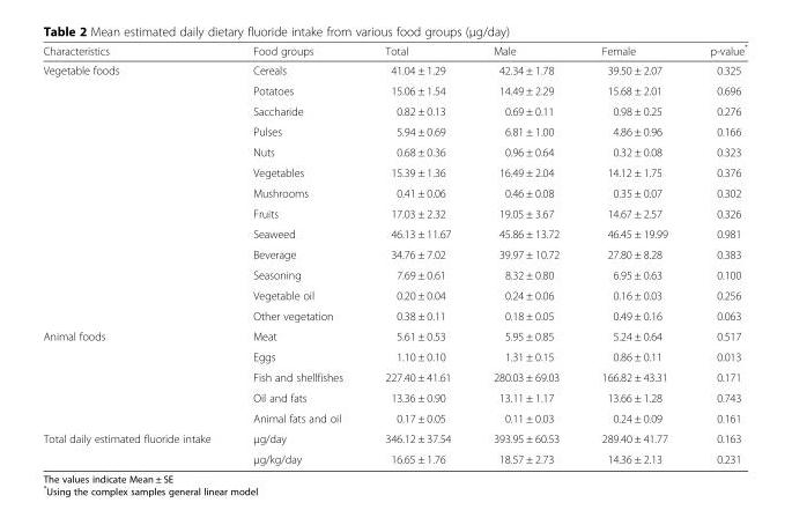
<table><thead><tr><td>Characteristics</td><td>Food groups</td><td>Total</td><td>Male</td><td>Female</td><td>p-value*</td></tr></thead><tbody><tr><td rowspan="13">Vegetable foods</td><td>Cereals</td><td>41.04 ± 1.29</td><td>42.34 ± 1.78</td><td>39.50 ± 2.07</td><td>0.325</td></tr><tr><td>Potatoes</td><td>15.06 ± 1.54</td><td>14.49 ± 2.29</td><td>15.68 ± 2.01</td><td>0.696</td></tr><tr><td>Saccharide</td><td>0.82 ± 0.13</td><td>0.69 ± 0.11</td><td>0.98 ± 0.25</td><td>0.276</td></tr><tr><td>Pulses</td><td>5.94 ± 0.69</td><td>6.81 ± 1.00</td><td>4.86 ± 0.96</td><td>0.166</td></tr><tr><td>Nuts</td><td>0.68 ± 0.36</td><td>0.96 ± 0.64</td><td>0.32 ± 0.08</td><td>0.323</td></tr><tr><td>Vegetables</td><td>15.39 ± 1.36</td><td>16.49 ± 2.04</td><td>14.12 ± 1.75</td><td>0.376</td></tr><tr><td>Mushrooms</td><td>0.41 ± 0.06</td><td>0.46 ± 0.08</td><td>0.35 ± 0.07</td><td>0.302</td></tr><tr><td>Fruits</td><td>17.03 ± 2.32</td><td>19.05 ± 3.67</td><td>14.67 ± 2.57</td><td>0.326</td></tr><tr><td>Seaweed</td><td>46.13 ± 11.67</td><td>45.86 ± 13.72</td><td>46.45 ± 19.99</td><td>0.981</td></tr><tr><td>Beverage</td><td>34.76 ± 7.02</td><td>39.97 ± 10.72</td><td>27.80 ± 8.28</td><td>0.383</td></tr><tr><td>Seasoning</td><td>7.69 ± 0.61</td><td>8.32 ± 0.80</td><td>6.95 ± 0.63</td><td>0.100</td></tr><tr><td>Vegetable oil</td><td>0.20 ± 0.04</td><td>0.24 ± 0.06</td><td>0.16 ± 0.03</td><td>0.256</td></tr><tr><td>Other vegetation</td><td>0.38 ± 0.11</td><td>0.18 ± 0.05</td><td>0.49 ± 0.16</td><td>0.063</td></tr><tr><td rowspan="5">Animal foods</td><td>Meat</td><td>5.61 ± 0.53</td><td>5.95 ± 0.85</td><td>5.24 ± 0.64</td><td>0.517</td></tr><tr><td>Eggs</td><td>1.10 ± 0.10</td><td>1.31 ± 0.15</td><td>0.86 ± 0.11</td><td>0.013</td></tr><tr><td>Fish and shellfishes</td><td>227.40 ± 41.61</td><td>280.03 ± 69.03</td><td>166.82 ± 43.31</td><td>0.171</td></tr><tr><td>Oil and fats</td><td>13.36 ± 0.90</td><td>13.11 ± 1.17</td><td>13.66 ± 1.28</td><td>0.743</td></tr><tr><td>Animal fats and oil</td><td>0.17 ± 0.05</td><td>0.11 ± 0.03</td><td>0.24 ± 0.09</td><td>0.161</td></tr><tr><td rowspan="2">Total daily estimated fluoride intake</td><td>μg/day</td><td>346.12 ± 37.54</td><td>393.95 ± 60.53</td><td>289.40 ± 41.77</td><td>0.163</td></tr><tr><td>μg/kg/day</td><td>16.65 ± 1.76</td><td>18.57 ± 2.73</td><td>14.36 ± 2.13</td><td>0.231</td></tr></tbody></table>